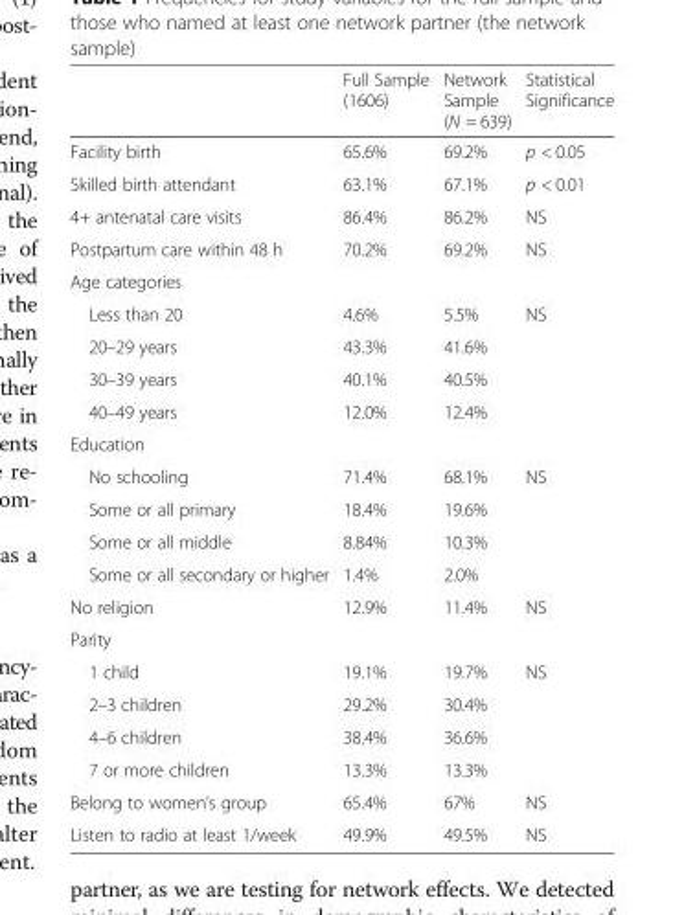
<table><thead><tr><td></td><td>Full Sample (1606)</td><td>Network Sample (N = 639)</td><td>Statistical Significance</td></tr></thead><tbody><tr><td>Facility birth</td><td>65.6%</td><td>69.2%</td><td>p &lt; 0.05</td></tr><tr><td>Skilled birth attendant</td><td>63.1%</td><td>67.1%</td><td>p &lt; 0.01</td></tr><tr><td>4+ antenatal care visits</td><td>86.4%</td><td>86.2%</td><td>NS</td></tr><tr><td>Postpartum care within 48 h</td><td>70.2%</td><td>69.2%</td><td>NS</td></tr><tr><td colspan="4">Age categories</td></tr><tr><td>Less than 20</td><td>4.6%</td><td>5.5%</td><td rowspan="4">NS</td></tr><tr><td>20–29 years</td><td>43.3%</td><td>41.6%</td></tr><tr><td>30–39 years</td><td>40.1%</td><td>40.5%</td></tr><tr><td>40–49 years</td><td>12.0%</td><td>12.4%</td></tr><tr><td colspan="4">Education</td></tr><tr><td>No schooling</td><td>71.4%</td><td>68.1%</td><td rowspan="4">NS</td></tr><tr><td>Some or all primary</td><td>18.4%</td><td>19.6%</td></tr><tr><td>Some or all middle</td><td>8.84%</td><td>10.3%</td></tr><tr><td>Some or all secondary or higher</td><td>1.4%</td><td>2.0%</td></tr><tr><td>No religion</td><td>12.9%</td><td>11.4%</td><td>NS</td></tr><tr><td colspan="4">Parity</td></tr><tr><td>1 child</td><td>19.1%</td><td>19.7%</td><td rowspan="4">NS</td></tr><tr><td>2–3 children</td><td>29.2%</td><td>30.4%</td></tr><tr><td>4–6 children</td><td>38.4%</td><td>36.6%</td></tr><tr><td>7 or more children</td><td>13.3%</td><td>13.3%</td></tr><tr><td>Belong to women’s group</td><td>65.4%</td><td>67%</td><td>NS</td></tr><tr><td>Listen to radio at least 1/week</td><td>49.9%</td><td>49.5%</td><td>NS</td></tr></tbody></table>